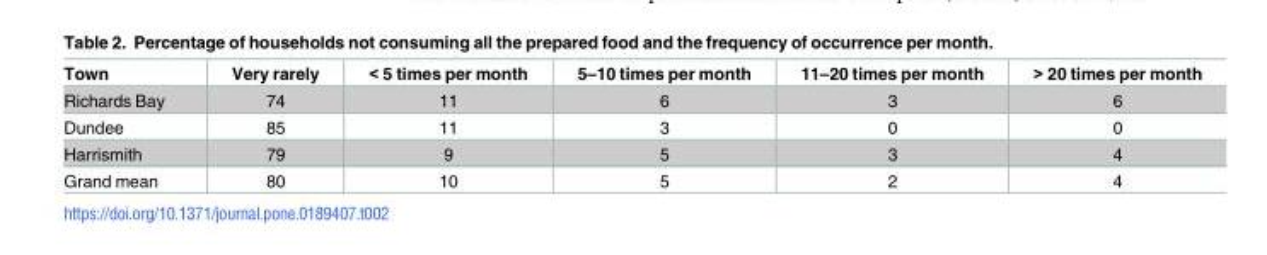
<table><thead><tr><td>Town</td><td>Very rarely</td><td>&lt; 5 times per month</td><td>5–10 times per month</td><td>11–20 times per month</td><td>&gt; 20 times per month</td></tr></thead><tbody><tr><td>Richards Bay</td><td>74</td><td>11</td><td>6</td><td>3</td><td>6</td></tr><tr><td>Dundee</td><td>85</td><td>11</td><td>3</td><td>0</td><td>0</td></tr><tr><td>Harrismith</td><td>79</td><td>9</td><td>5</td><td>3</td><td>4</td></tr><tr><td>Grand mean</td><td>80</td><td>10</td><td>5</td><td>2</td><td>4</td></tr></tbody></table>